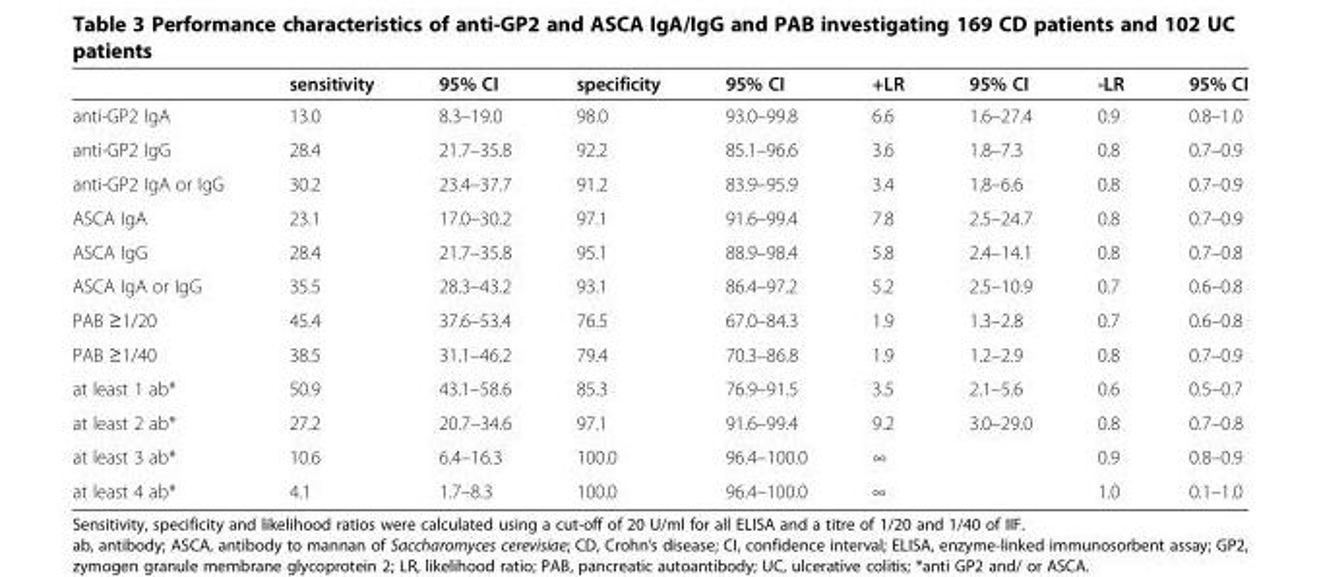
<table><thead><tr><td></td><td>sensitivity</td><td>95% CI</td><td>specificity</td><td>95% CI</td><td>+LR</td><td>95% CI</td><td>-LR</td><td>95% CI</td></tr></thead><tbody><tr><td>anti-GP2 IgA</td><td>13.0</td><td>8.3–19.0</td><td>98.0</td><td>93.0–99.8</td><td>6.6</td><td>1.6–27.4</td><td>0.9</td><td>0.8–1.0</td></tr><tr><td>anti-GP2 IgG</td><td>28.4</td><td>21.7–35.8</td><td>92.2</td><td>85.1–96.6</td><td>3.6</td><td>1.8–7.3</td><td>0.8</td><td>0.7–0.9</td></tr><tr><td>anti-GP2 IgA or IgG</td><td>30.2</td><td>23.4–37.7</td><td>91.2</td><td>83.9–95.9</td><td>3.4</td><td>1.8–6.6</td><td>0.8</td><td>0.7–0.9</td></tr><tr><td>ASCA IgA</td><td>23.1</td><td>17.0–30.2</td><td>97.1</td><td>91.6–99.4</td><td>7.8</td><td>2.5–24.7</td><td>0.8</td><td>0.7–0.9</td></tr><tr><td>ASCA IgG</td><td>28.4</td><td>21.7–35.8</td><td>95.1</td><td>88.9–98.4</td><td>5.8</td><td>2.4–14.1</td><td>0.8</td><td>0.7–0.8</td></tr><tr><td>ASCA IgA or IgG</td><td>35.5</td><td>28.3–43.2</td><td>93.1</td><td>86.4–97.2</td><td>5.2</td><td>2.5–10.9</td><td>0.7</td><td>0.6–0.8</td></tr><tr><td>PAB ≥1/20</td><td>45.4</td><td>37.6–53.4</td><td>76.5</td><td>67.0–84.3</td><td>1.9</td><td>1.3–2.8</td><td>0.7</td><td>0.6–0.8</td></tr><tr><td>PAB ≥1/40</td><td>38.5</td><td>31.1–46.2</td><td>79.4</td><td>70.3–86.8</td><td>1.9</td><td>1.2–2.9</td><td>0.8</td><td>0.7–0.9</td></tr><tr><td>at least 1 ab*</td><td>50.9</td><td>43.1–58.6</td><td>85.3</td><td>76.9–91.5</td><td>3.5</td><td>2.1–5.6</td><td>0.6</td><td>0.5–0.7</td></tr><tr><td>at least 2 ab*</td><td>27.2</td><td>20.7–34.6</td><td>97.1</td><td>91.6–99.4</td><td>9.2</td><td>3.0–29.0</td><td>0.8</td><td>0.7–0.8</td></tr><tr><td>at least 3 ab*</td><td>10.6</td><td>6.4–16.3</td><td>100.0</td><td>96.4–100.0</td><td>∞</td><td></td><td>0.9</td><td>0.8–0.9</td></tr><tr><td>at least 4 ab*</td><td>4.1</td><td>1.7–8.3</td><td>100.0</td><td>96.4–100.0</td><td>∞</td><td></td><td>1.0</td><td>0.1–1.0</td></tr></tbody></table>